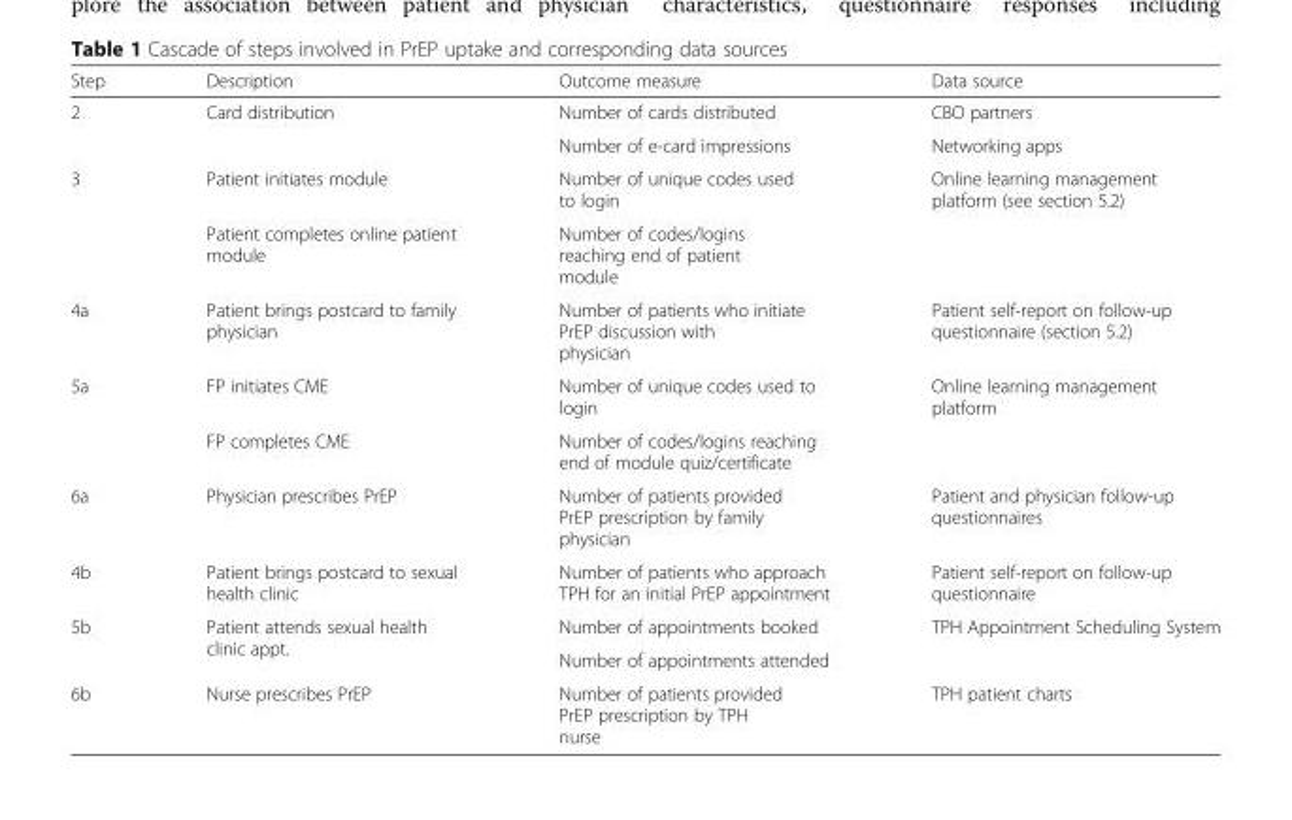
<table><thead><tr><td>Step</td><td>Description</td><td>Outcome measure</td><td>Data source</td></tr></thead><tbody><tr><td rowspan="2">2</td><td rowspan="2">Card distribution</td><td>Number of cards distributed</td><td>CBO partners</td></tr><tr><td>Number of e-card impressions</td><td>Networking apps</td></tr><tr><td rowspan="2">3</td><td>Patient initiates module</td><td>Number of unique codes used to login</td><td rowspan="2">Online learning management platform (see section 5.2)</td></tr><tr><td>Patient completes online patient module</td><td>Number of codes/logins reaching end of patient module</td></tr><tr><td>4a</td><td>Patient brings postcard to family physician</td><td>Number of patients who initiate PrEP discussion with physician</td><td>Patient self-report on follow-up questionnaire (section 5.2)</td></tr><tr><td rowspan="2">5a</td><td>FP initiates CME</td><td>Number of unique codes used to login</td><td rowspan="2">Online learning management platform</td></tr><tr><td>FP completes CME</td><td>Number of codes/logins reaching end of module quiz/certificate</td></tr><tr><td>6a</td><td>Physician prescribes PrEP</td><td>Number of patients provided PrEP prescription by family physician</td><td>Patient and physician follow-up questionnaires</td></tr><tr><td>4b</td><td>Patient brings postcard to sexual health clinic</td><td>Number of patients who approach TPH for an initial PrEP appointment</td><td>Patient self-report on follow-up questionnaire</td></tr><tr><td rowspan="2">5b</td><td rowspan="2">Patient attends sexual health clinic appt.</td><td>Number of appointments booked</td><td rowspan="2">TPH Appointment Scheduling System</td></tr><tr><td>Number of appointments attended</td></tr><tr><td>6b</td><td>Nurse prescribes PrEP</td><td>Number of patients provided PrEP prescription by TPH nurse</td><td>TPH patient charts</td></tr></tbody></table>